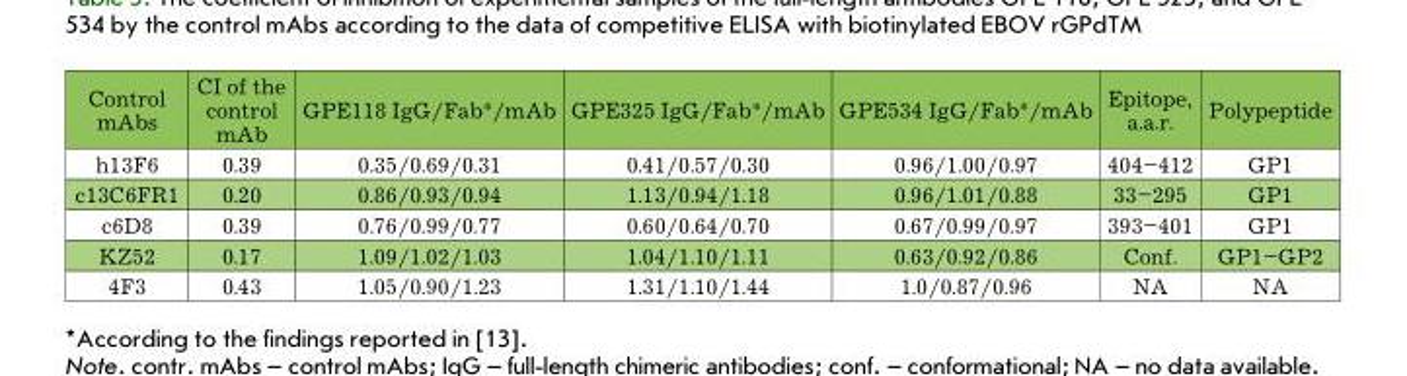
<table><thead><tr><td>Control mAbs</td><td>CI of the control mAb</td><td>GPE118 IgG/Fab*/mAb</td><td>GPE325 IgG/Fab*/mAb</td><td>GPE534 IgG/Fab*/mAb</td><td>Epitope, a.a.r.</td><td>Polypeptide</td></tr></thead><tbody><tr><td>h13F6</td><td>0.39</td><td>0.35/0.69/0.31</td><td>0.41/0.57/0.30</td><td>0.96/1.00/0.97</td><td>404–412</td><td>GP1</td></tr><tr><td>c13C6FR1</td><td>0.20</td><td>0.86/0.93/0.94</td><td>1.13/0.94/1.18</td><td>0.96/1.01/0.88</td><td>33–295</td><td>GP1</td></tr><tr><td>c6D8</td><td>0.39</td><td>0.76/0.99/0.77</td><td>0.60/0.64/0.70</td><td>0.67/0.99/0.97</td><td>393–401</td><td>GP1</td></tr><tr><td>KZ52</td><td>0.17</td><td>1.09/1.02/1.03</td><td>1.04/1.10/1.11</td><td>0.63/0.92/0.86</td><td>Conf.</td><td>GP1–GP2</td></tr><tr><td>4F3</td><td>0.43</td><td>1.05/0.90/1.23</td><td>1.31/1.10/1.44</td><td>1.0/0.87/0.96</td><td>NA</td><td>NA</td></tr></tbody></table>